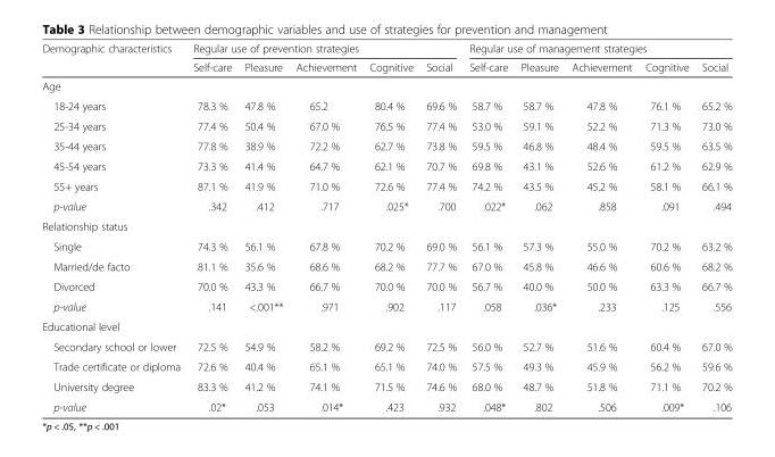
<table><thead><tr><td rowspan="2">Demographic characteristics</td><td colspan="5">Regular use of prevention strategies</td><td colspan="5">Regular use of management strategies</td></tr><tr><td>Self-care</td><td>Pleasure</td><td>Achievement</td><td>Cognitive</td><td>Social</td><td>Self-care</td><td>Pleasure</td><td>Achievement</td><td>Cognitive</td><td>Social</td></tr></thead><tbody><tr><td colspan="11">Age</td></tr><tr><td>18-24 years</td><td>78.3 %</td><td>47.8 %</td><td>65.2</td><td>80.4 %</td><td>69.6 %</td><td>58.7 %</td><td>58.7 %</td><td>47.8 %</td><td>76.1 %</td><td>65.2 %</td></tr><tr><td>25-34 years</td><td>77.4 %</td><td>50.4 %</td><td>67.0 %</td><td>76.5 %</td><td>77.4 %</td><td>53.0 %</td><td>59.1 %</td><td>52.2 %</td><td>71.3 %</td><td>73.0 %</td></tr><tr><td>35-44 years</td><td>77.8 %</td><td>38.9 %</td><td>72.2 %</td><td>62.7 %</td><td>73.8 %</td><td>59.5 %</td><td>46.8 %</td><td>48.4 %</td><td>59.5 %</td><td>63.5 %</td></tr><tr><td>45-54 years</td><td>73.3 %</td><td>41.4 %</td><td>64.7 %</td><td>62.1 %</td><td>70.7 %</td><td>69.8 %</td><td>43.1 %</td><td>52.6 %</td><td>61.2 %</td><td>62.9 %</td></tr><tr><td>55+ years</td><td>87.1 %</td><td>41.9 %</td><td>71.0 %</td><td>72.6 %</td><td>77.4 %</td><td>74.2 %</td><td>43.5 %</td><td>45.2 %</td><td>58.1 %</td><td>66.1 %</td></tr><tr><td>p-value</td><td>.342</td><td>.412</td><td>.717</td><td>.025*</td><td>.700</td><td>.022*</td><td>.062</td><td>.858</td><td>.091</td><td>.494</td></tr><tr><td colspan="11">Relationship status</td></tr><tr><td>Single</td><td>74.3 %</td><td>56.1 %</td><td>67.8 %</td><td>70.2 %</td><td>69.0 %</td><td>56.1 %</td><td>57.3 %</td><td>55.0 %</td><td>70.2 %</td><td>63.2 %</td></tr><tr><td>Married/de facto</td><td>81.1 %</td><td>35.6 %</td><td>68.6 %</td><td>68.2 %</td><td>77.7 %</td><td>67.0 %</td><td>45.8 %</td><td>46.6 %</td><td>60.6 %</td><td>68.2 %</td></tr><tr><td>Divorced</td><td>70.0 %</td><td>43.3 %</td><td>66.7 %</td><td>70.0 %</td><td>70.0 %</td><td>56.7 %</td><td>40.0 %</td><td>50.0 %</td><td>63.3 %</td><td>66.7 %</td></tr><tr><td>p-value</td><td>.141</td><td>&lt;.001**</td><td>.971</td><td>.902</td><td>.117</td><td>.058</td><td>.036*</td><td>.233</td><td>.125</td><td>.556</td></tr><tr><td colspan="11">Educational level</td></tr><tr><td>Secondary school or lower</td><td>72.5 %</td><td>54.9 %</td><td>58.2 %</td><td>69.2 %</td><td>72.5 %</td><td>56.0 %</td><td>52.7 %</td><td>51.6 %</td><td>60.4 %</td><td>67.0 %</td></tr><tr><td>Trade certificate or diploma</td><td>72.6 %</td><td>40.4 %</td><td>65.1 %</td><td>65.1 %</td><td>74.0 %</td><td>57.5 %</td><td>49.3 %</td><td>45.9 %</td><td>56.2 %</td><td>59.6 %</td></tr><tr><td>University degree</td><td>83.3 %</td><td>41.2 %</td><td>74.1 %</td><td>71.5 %</td><td>74.6 %</td><td>68.0 %</td><td>48.7 %</td><td>51.8 %</td><td>71.1 %</td><td>70.2 %</td></tr><tr><td>p-value</td><td>.02*</td><td>.053</td><td>.014*</td><td>.423</td><td>.932</td><td>.048*</td><td>.802</td><td>.506</td><td>.009*</td><td>.106</td></tr></tbody></table>